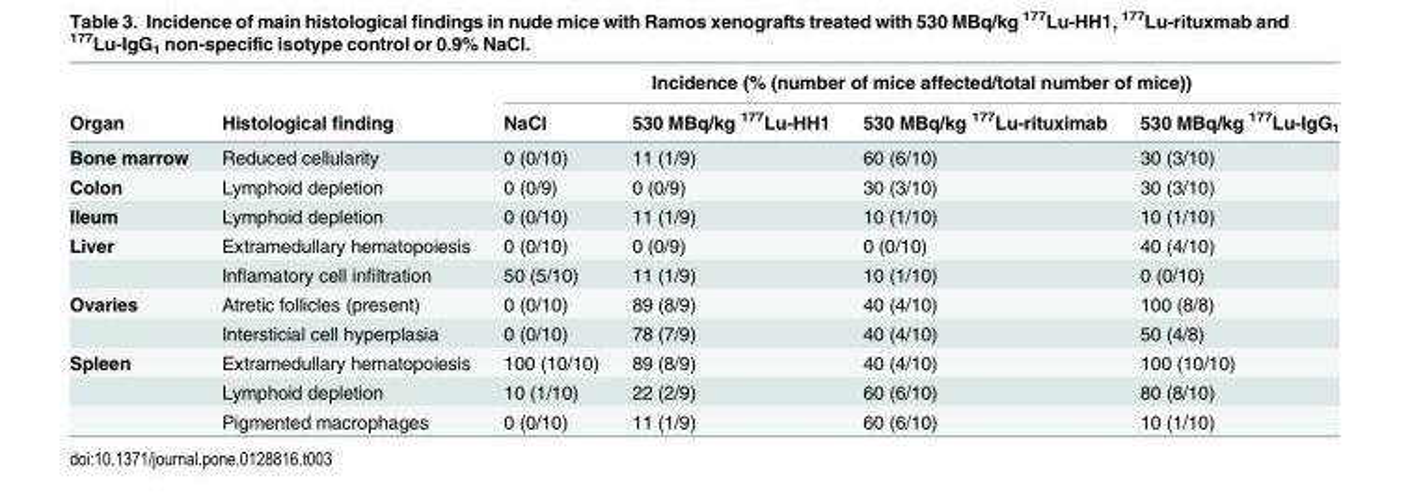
<table><thead><tr><td rowspan="2">Organ</td><td rowspan="2">Histological finding</td><td colspan="4">Incidence (% (number of mice affected/total number of mice))</td></tr><tr><td>NaCl</td><td>530 MBq/kg <sup>177</sup>Lu-HH1</td><td>530 MBq/kg <sup>177</sup>Lu-rituximab</td><td>530 MBq/kg <sup>177</sup>Lu-IgG<sub>1</sub></td></tr></thead><tbody><tr><td>Bone marrow</td><td>Reduced cellularity</td><td>0 (0/10)</td><td>11 (1/9)</td><td>60 (6/10)</td><td>30 (3/10)</td></tr><tr><td>Colon</td><td>Lymphoid depletion</td><td>0 (0/9)</td><td>0 (0/9)</td><td>30 (3/10)</td><td>30 (3/10)</td></tr><tr><td>Ileum</td><td>Lymphoid depletion</td><td>0 (0/10)</td><td>11 (1/9)</td><td>10 (1/10)</td><td>10 (1/10)</td></tr><tr><td rowspan="2">Liver</td><td>Extramedullary hematopoiesis</td><td>0 (0/10)</td><td>0 (0/9)</td><td>0 (0/10)</td><td>40 (4/10)</td></tr><tr><td>Inflamatory cell infiltration</td><td>50 (5/10)</td><td>11 (1/9)</td><td>10 (1/10)</td><td>0 (0/10)</td></tr><tr><td rowspan="2">Ovaries</td><td>Atretic follicles (present)</td><td>0 (0/10)</td><td>89 (8/9)</td><td>40 (4/10)</td><td>100 (8/8)</td></tr><tr><td>Intersticial cell hyperplasia</td><td>0 (0/10)</td><td>78 (7/9)</td><td>40 (4/10)</td><td>50 (4/8)</td></tr><tr><td rowspan="3">Spleen</td><td>Extramedullary hematopoiesis</td><td>100 (10/10)</td><td>89 (8/9)</td><td>40 (4/10)</td><td>100 (10/10)</td></tr><tr><td>Lymphoid depletion</td><td>10 (1/10)</td><td>22 (2/9)</td><td>60 (6/10)</td><td>80 (8/10)</td></tr><tr><td>Pigmented macrophages</td><td>0 (0/10)</td><td>11 (1/9)</td><td>60 (6/10)</td><td>10 (1/10)</td></tr></tbody></table>